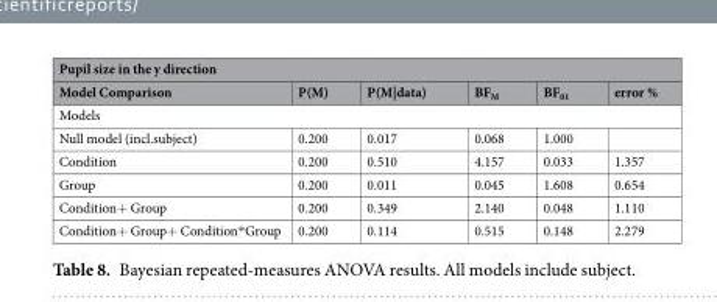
<table><thead><tr><td colspan="6">Pupil size in the y direction</td></tr><tr><td>Model Comparison</td><td>P(M)</td><td>P(M|data)</td><td>BF<sub>M</sub></td><td>BF<sub>01</sub></td><td>error %</td></tr></thead><tbody><tr><td colspan="6">Models</td></tr><tr><td>Null model (incl.subject)</td><td>0.200</td><td>0.017</td><td>0.068</td><td>1.000</td><td></td></tr><tr><td>Condition</td><td>0.200</td><td>0.510</td><td>4.157</td><td>0.033</td><td>1.357</td></tr><tr><td>Group</td><td>0.200</td><td>0.011</td><td>0.045</td><td>1.608</td><td>0.654</td></tr><tr><td>Condition+ Group</td><td>0.200</td><td>0.349</td><td>2.140</td><td>0.048</td><td>1.110</td></tr><tr><td>Condition+ Group+ Condition*Group</td><td>0.200</td><td>0.114</td><td>0.515</td><td>0.148</td><td>2.279</td></tr></tbody></table>